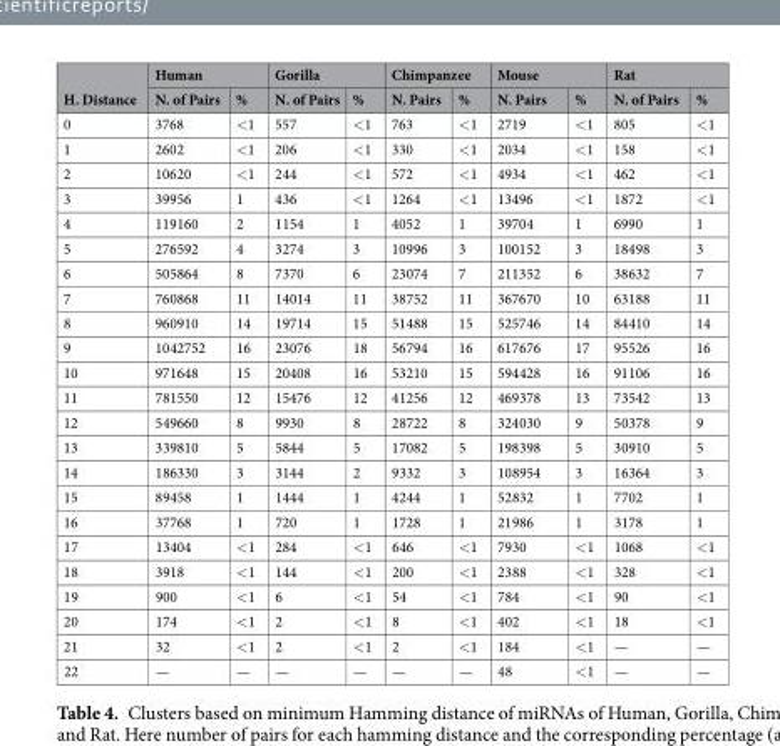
<table><thead><tr><td rowspan="2">H. Distance</td><td colspan="2">Human</td><td colspan="2">Gorilla</td><td colspan="2">Chimpanzee</td><td colspan="2">Mouse</td><td colspan="2">Rat</td></tr><tr><td>N. of Pairs</td><td>%</td><td>N. of Pairs</td><td>%</td><td>N. Pairs</td><td>%</td><td>N. Pairs</td><td>%</td><td>N. of Pairs</td><td>%</td></tr></thead><tbody><tr><td>0</td><td>3768</td><td>&lt;1</td><td>557</td><td>&lt;1</td><td>763</td><td>&lt;1</td><td>2719</td><td>&lt;1</td><td>805</td><td>&lt;1</td></tr><tr><td>1</td><td>2602</td><td>&lt;1</td><td>206</td><td>&lt;1</td><td>330</td><td>&lt;1</td><td>2034</td><td>&lt;1</td><td>158</td><td>&lt;1</td></tr><tr><td>2</td><td>10620</td><td>&lt;1</td><td>244</td><td>&lt;1</td><td>572</td><td>&lt;1</td><td>4934</td><td>&lt;1</td><td>462</td><td>&lt;1</td></tr><tr><td>3</td><td>39956</td><td>1</td><td>436</td><td>&lt;1</td><td>1264</td><td>&lt;1</td><td>13496</td><td>&lt;1</td><td>1872</td><td>&lt;1</td></tr><tr><td>4</td><td>119160</td><td>2</td><td>1154</td><td>1</td><td>4052</td><td>1</td><td>39704</td><td>1</td><td>6990</td><td>1</td></tr><tr><td>5</td><td>276592</td><td>4</td><td>3274</td><td>3</td><td>10996</td><td>3</td><td>100152</td><td>3</td><td>18498</td><td>3</td></tr><tr><td>6</td><td>505864</td><td>8</td><td>7370</td><td>6</td><td>23074</td><td>7</td><td>211352</td><td>6</td><td>38632</td><td>7</td></tr><tr><td>7</td><td>760868</td><td>11</td><td>14014</td><td>11</td><td>38752</td><td>11</td><td>367670</td><td>10</td><td>63188</td><td>11</td></tr><tr><td>8</td><td>960910</td><td>14</td><td>19714</td><td>15</td><td>51488</td><td>15</td><td>525746</td><td>14</td><td>84410</td><td>14</td></tr><tr><td>9</td><td>1042752</td><td>16</td><td>23076</td><td>18</td><td>56794</td><td>16</td><td>617676</td><td>17</td><td>95526</td><td>16</td></tr><tr><td>10</td><td>971648</td><td>15</td><td>20408</td><td>16</td><td>53210</td><td>15</td><td>594428</td><td>16</td><td>91106</td><td>16</td></tr><tr><td>11</td><td>781550</td><td>12</td><td>15476</td><td>12</td><td>41256</td><td>12</td><td>469378</td><td>13</td><td>73542</td><td>13</td></tr><tr><td>12</td><td>549660</td><td>8</td><td>9930</td><td>8</td><td>28722</td><td>8</td><td>324030</td><td>9</td><td>50378</td><td>9</td></tr><tr><td>13</td><td>339810</td><td>5</td><td>5844</td><td>5</td><td>17082</td><td>5</td><td>198398</td><td>5</td><td>30910</td><td>5</td></tr><tr><td>14</td><td>186330</td><td>3</td><td>3144</td><td>2</td><td>9332</td><td>3</td><td>108954</td><td>3</td><td>16364</td><td>3</td></tr><tr><td>15</td><td>89458</td><td>1</td><td>1444</td><td>1</td><td>4244</td><td>1</td><td>52832</td><td>1</td><td>7702</td><td>1</td></tr><tr><td>16</td><td>37768</td><td>1</td><td>720</td><td>1</td><td>1728</td><td>1</td><td>21986</td><td>1</td><td>3178</td><td>1</td></tr><tr><td>17</td><td>13404</td><td>&lt;1</td><td>284</td><td>&lt;1</td><td>646</td><td>&lt;1</td><td>7930</td><td>&lt;1</td><td>1068</td><td>&lt;1</td></tr><tr><td>18</td><td>3918</td><td>&lt;1</td><td>144</td><td>&lt;1</td><td>200</td><td>&lt;1</td><td>2388</td><td>&lt;1</td><td>328</td><td>&lt;1</td></tr><tr><td>19</td><td>900</td><td>&lt;1</td><td>6</td><td>&lt;1</td><td>54</td><td>&lt;1</td><td>784</td><td>&lt;1</td><td>90</td><td>&lt;1</td></tr><tr><td>20</td><td>174</td><td>&lt;1</td><td>2</td><td>&lt;1</td><td>8</td><td>&lt;1</td><td>402</td><td>&lt;1</td><td>18</td><td>&lt;1</td></tr><tr><td>21</td><td>32</td><td>&lt;1</td><td>2</td><td>&lt;1</td><td>2</td><td>&lt;1</td><td>184</td><td>&lt;1</td><td>—</td><td>—</td></tr><tr><td>22</td><td>—</td><td>—</td><td>—</td><td>—</td><td>—</td><td>—</td><td>48</td><td>&lt;1</td><td>—</td><td>—</td></tr></tbody></table>